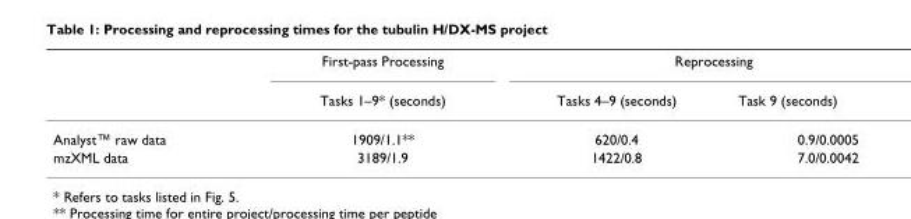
<table><thead><tr><td rowspan="2"></td><td rowspan="2">First-pass Processing Tasks 1–9* (seconds)</td><td colspan="2">Reprocessing</td></tr><tr><td>Tasks 4–9 (seconds)</td><td>Task 9 (seconds)</td></tr></thead><tbody><tr><td>Analyst™ raw data</td><td>1909/1.1**</td><td>620/0.4</td><td>0.9/0.0005</td></tr><tr><td>mzXML data</td><td>3189/1.9</td><td>1422/0.8</td><td>7.0/0.0042</td></tr></tbody></table>